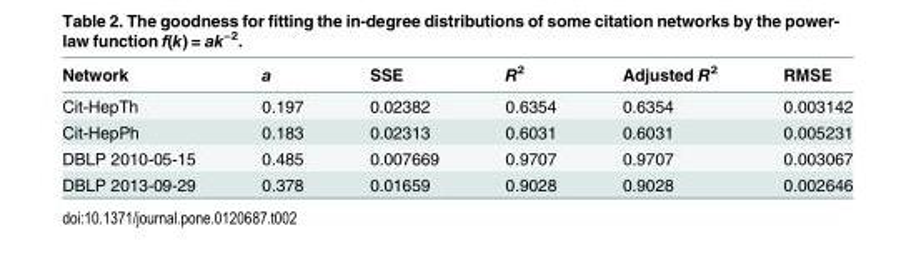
<table><thead><tr><td>Network</td><td>a</td><td>SSE</td><td>R<sup>2</sup></td><td>Adjusted R<sup>2</sup></td><td>RMSE</td></tr></thead><tbody><tr><td>Cit-HepTh</td><td>0.197</td><td>0.02382</td><td>0.6354</td><td>0.6354</td><td>0.003142</td></tr><tr><td>Cit-HepPh</td><td>0.183</td><td>0.02313</td><td>0.6031</td><td>0.6031</td><td>0.005231</td></tr><tr><td>DBLP 2010-05-15</td><td>0.485</td><td>0.007669</td><td>0.9707</td><td>0.9707</td><td>0.003067</td></tr><tr><td>DBLP 2013-09-29</td><td>0.378</td><td>0.01659</td><td>0.9028</td><td>0.9028</td><td>0.002646</td></tr></tbody></table>